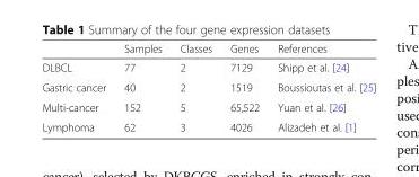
<table><thead><tr><td></td><td>Samples</td><td>Classes</td><td>Genes</td><td>References</td></tr></thead><tbody><tr><td>DLBCL</td><td>77</td><td>2</td><td>7129</td><td>Shipp et al. [24]</td></tr><tr><td>Gastric cancer</td><td>40</td><td>2</td><td>1519</td><td>Boussioutas et al. [25]</td></tr><tr><td>Multi-cancer</td><td>152</td><td>5</td><td>65,522</td><td>Yuan et al. [26]</td></tr><tr><td>Lymphoma</td><td>62</td><td>3</td><td>4026</td><td>Alizadeh et al. [1]</td></tr></tbody></table>